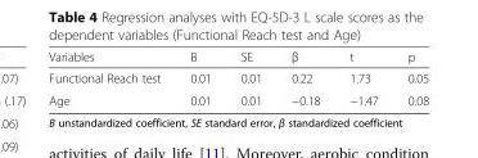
<table><thead><tr><td>Variables</td><td>B</td><td>SE</td><td>β</td><td>t</td><td>p</td></tr></thead><tbody><tr><td>Functional Reach test</td><td>0.01</td><td>0.01</td><td>0.22</td><td>1.73</td><td>0.05</td></tr><tr><td>Age</td><td>0.01</td><td>0.01</td><td>−0.18</td><td>−1.47</td><td>0.08</td></tr></tbody></table>